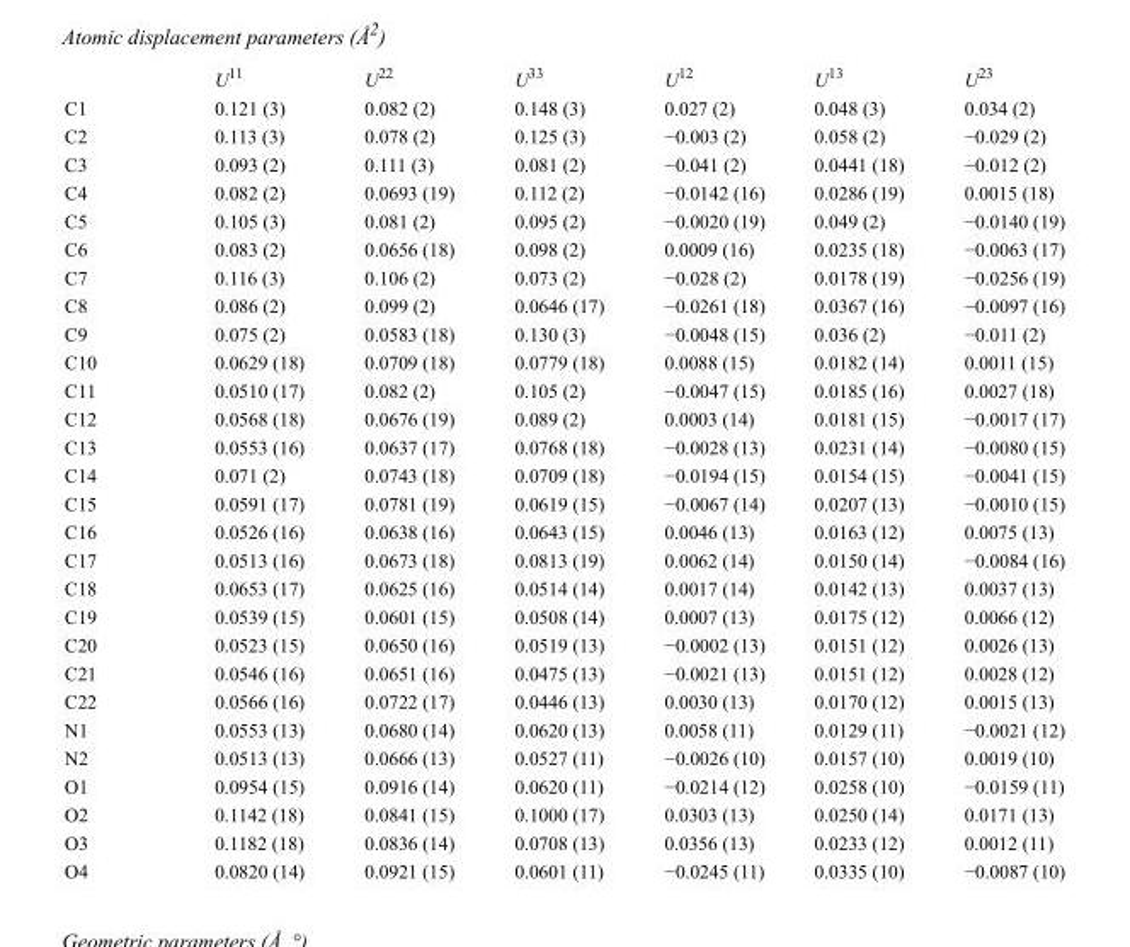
<table><thead><tr><td></td><td>U<sup>11</sup></td><td>U<sup>22</sup></td><td>U<sup>33</sup></td><td>U<sup>12</sup></td><td>U<sup>13</sup></td><td>U<sup>23</sup></td></tr></thead><tbody><tr><td>C1</td><td>0.121 (3)</td><td>0.082 (2)</td><td>0.148 (3)</td><td>0.027 (2)</td><td>0.048 (3)</td><td>0.034 (2)</td></tr><tr><td>C2</td><td>0.113 (3)</td><td>0.078 (2)</td><td>0.125 (3)</td><td>−0.003 (2)</td><td>0.058 (2)</td><td>−0.029 (2)</td></tr><tr><td>C3</td><td>0.093 (2)</td><td>0.111 (3)</td><td>0.081 (2)</td><td>−0.041 (2)</td><td>0.0441 (18)</td><td>−0.012 (2)</td></tr><tr><td>C4</td><td>0.082 (2)</td><td>0.0693 (19)</td><td>0.112 (2)</td><td>−0.0142 (16)</td><td>0.0286 (19)</td><td>0.0015 (18)</td></tr><tr><td>C5</td><td>0.105 (3)</td><td>0.081 (2)</td><td>0.095 (2)</td><td>−0.0020 (19)</td><td>0.049 (2)</td><td>−0.0140 (19)</td></tr><tr><td>C6</td><td>0.083 (2)</td><td>0.0656 (18)</td><td>0.098 (2)</td><td>0.0009 (16)</td><td>0.0235 (18)</td><td>−0.0063 (17)</td></tr><tr><td>C7</td><td>0.116 (3)</td><td>0.106 (2)</td><td>0.073 (2)</td><td>−0.028 (2)</td><td>0.0178 (19)</td><td>−0.0256 (19)</td></tr><tr><td>C8</td><td>0.086 (2)</td><td>0.099 (2)</td><td>0.0646 (17)</td><td>−0.0261 (18)</td><td>0.0367 (16)</td><td>−0.0097 (16)</td></tr><tr><td>C9</td><td>0.075 (2)</td><td>0.0583 (18)</td><td>0.130 (3)</td><td>−0.0048 (15)</td><td>0.036 (2)</td><td>−0.011 (2)</td></tr><tr><td>C10</td><td>0.0629 (18)</td><td>0.0709 (18)</td><td>0.0779 (18)</td><td>0.0088 (15)</td><td>0.0182 (14)</td><td>0.0011 (15)</td></tr><tr><td>C11</td><td>0.0510 (17)</td><td>0.082 (2)</td><td>0.105 (2)</td><td>−0.0047 (15)</td><td>0.0185 (16)</td><td>0.0027 (18)</td></tr><tr><td>C12</td><td>0.0568 (18)</td><td>0.0676 (19)</td><td>0.089 (2)</td><td>0.0003 (14)</td><td>0.0181 (15)</td><td>−0.0017 (17)</td></tr><tr><td>C13</td><td>0.0553 (16)</td><td>0.0637 (17)</td><td>0.0768 (18)</td><td>−0.0028 (13)</td><td>0.0231 (14)</td><td>−0.0080 (15)</td></tr><tr><td>C14</td><td>0.071 (2)</td><td>0.0743 (18)</td><td>0.0709 (18)</td><td>−0.0194 (15)</td><td>0.0154 (15)</td><td>−0.0041 (15)</td></tr><tr><td>C15</td><td>0.0591 (17)</td><td>0.0781 (19)</td><td>0.0619 (15)</td><td>−0.0067 (14)</td><td>0.0207 (13)</td><td>−0.0010 (15)</td></tr><tr><td>C16</td><td>0.0526 (16)</td><td>0.0638 (16)</td><td>0.0643 (15)</td><td>0.0046 (13)</td><td>0.0163 (12)</td><td>0.0075 (13)</td></tr><tr><td>C17</td><td>0.0513 (16)</td><td>0.0673 (18)</td><td>0.0813 (19)</td><td>0.0062 (14)</td><td>0.0150 (14)</td><td>−0.0084 (16)</td></tr><tr><td>C18</td><td>0.0653 (17)</td><td>0.0625 (16)</td><td>0.0514 (14)</td><td>0.0017 (14)</td><td>0.0142 (13)</td><td>0.0037 (13)</td></tr><tr><td>C19</td><td>0.0539 (15)</td><td>0.0601 (15)</td><td>0.0508 (14)</td><td>0.0007 (13)</td><td>0.0175 (12)</td><td>0.0066 (12)</td></tr><tr><td>C20</td><td>0.0523 (15)</td><td>0.0650 (16)</td><td>0.0519 (13)</td><td>−0.0002 (13)</td><td>0.0151 (12)</td><td>0.0026 (13)</td></tr><tr><td>C21</td><td>0.0546 (16)</td><td>0.0651 (16)</td><td>0.0475 (13)</td><td>−0.0021 (13)</td><td>0.0151 (12)</td><td>0.0028 (12)</td></tr><tr><td>C22</td><td>0.0566 (16)</td><td>0.0722 (17)</td><td>0.0446 (13)</td><td>0.0030 (13)</td><td>0.0170 (12)</td><td>0.0015 (13)</td></tr><tr><td>N1</td><td>0.0553 (13)</td><td>0.0680 (14)</td><td>0.0620 (13)</td><td>0.0058 (11)</td><td>0.0129 (11)</td><td>−0.0021 (12)</td></tr><tr><td>N2</td><td>0.0513 (13)</td><td>0.0666 (13)</td><td>0.0527 (11)</td><td>−0.0026 (10)</td><td>0.0157 (10)</td><td>0.0019 (10)</td></tr><tr><td>O1</td><td>0.0954 (15)</td><td>0.0916 (14)</td><td>0.0620 (11)</td><td>−0.0214 (12)</td><td>0.0258 (10)</td><td>−0.0159 (11)</td></tr><tr><td>O2</td><td>0.1142 (18)</td><td>0.0841 (15)</td><td>0.1000 (17)</td><td>0.0303 (13)</td><td>0.0250 (14)</td><td>0.0171 (13)</td></tr><tr><td>O3</td><td>0.1182 (18)</td><td>0.0836 (14)</td><td>0.0708 (13)</td><td>0.0356 (13)</td><td>0.0233 (12)</td><td>0.0012 (11)</td></tr><tr><td>O4</td><td>0.0820 (14)</td><td>0.0921 (15)</td><td>0.0601 (11)</td><td>−0.0245 (11)</td><td>0.0335 (10)</td><td>−0.0087 (10)</td></tr></tbody></table>